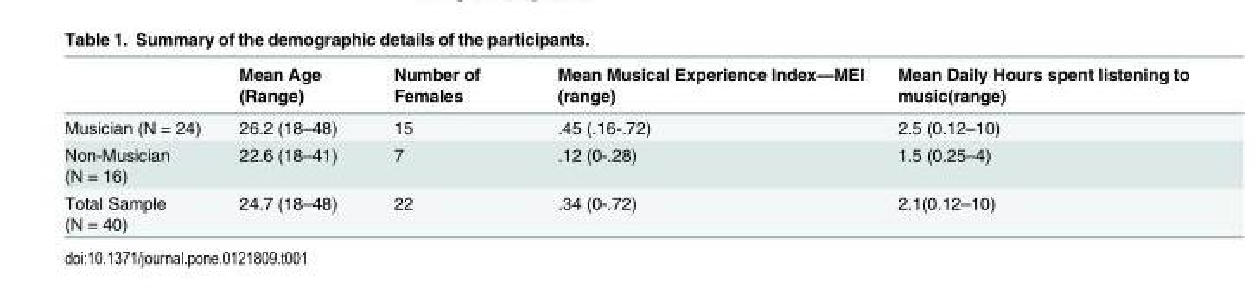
<table><thead><tr><td></td><td>Mean Age (Range)</td><td>Number of Females</td><td>Mean Musical Experience Index—MEI (range)</td><td>Mean Daily Hours spent listening to music(range)</td></tr></thead><tbody><tr><td>Musician (N = 24)</td><td>26.2 (18–48)</td><td>15</td><td>.45 (.16-.72)</td><td>2.5 (0.12–10)</td></tr><tr><td>Non-Musician (N = 16)</td><td>22.6 (18–41)</td><td>7</td><td>.12 (0-.28)</td><td>1.5 (0.25–4)</td></tr><tr><td>Total Sample (N = 40)</td><td>24.7 (18–48)</td><td>22</td><td>.34 (0-.72)</td><td>2.1(0.12–10)</td></tr></tbody></table>